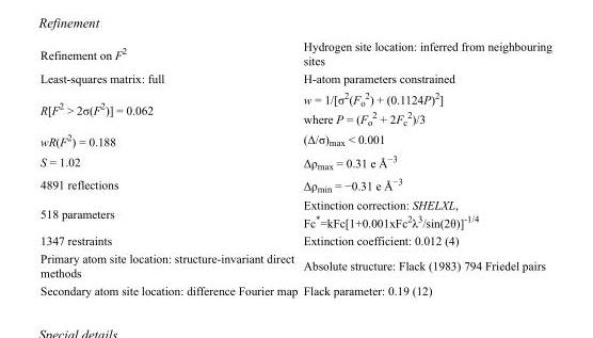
<table><tbody><tr><td>Refinement on F<sup>2</sup></td><td>Hydrogen site location: inferred from neighbouring sites</td></tr><tr><td>Least-squares matrix: full</td><td>H-atom parameters constrained</td></tr><tr><td>R[F<sup>2</sup> &gt; 2σ(F<sup>2</sup>)] = 0.062</td><td>w = 1/[σ<sup>2</sup>(F<sub>o</sub> <sup>2</sup>) + (0.1124P)<sup>2</sup>] where P = (F<sub>o</sub> <sup>2</sup> + 2F<sub>c</sub> <sup>2</sup>)/3</td></tr><tr><td>wR(F<sup>2</sup>) = 0.188</td><td>(Δ/σ)<sub>max</sub> &lt; 0.001</td></tr><tr><td>S = 1.02</td><td>Δρ<sub>max</sub> = 0.31 e Å<sup>−3</sup></td></tr><tr><td>4891 reflections</td><td>Δρ<sub>min</sub> = −0.31 e Å<sup>−3</sup></td></tr><tr><td>518 parameters</td><td>Extinction correction: SHELXL, Fc*=kFc[1+0.001xFc<sup>2</sup>λ<sup>3</sup>/sin(2θ)]<sup>-1/4</sup></td></tr><tr><td>1347 restraints</td><td>Extinction coefficient: 0.012 (4)</td></tr><tr><td>Primary atom site location: structure-invariant direct methods</td><td>Absolute structure: Flack (1983) 794 Friedel pairs</td></tr><tr><td>Secondary atom site location: difference Fourier map</td><td>Flack parameter: 0.19 (12)</td></tr></tbody></table>